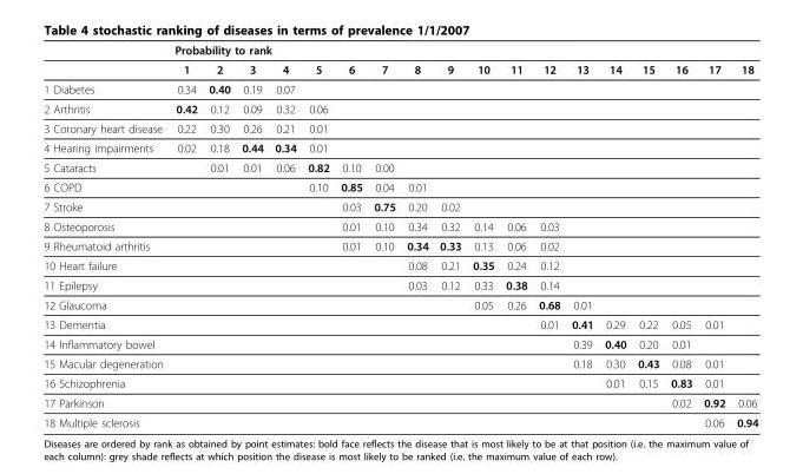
<table><thead><tr><td rowspan="2"></td><td colspan="18">Probability to rank</td></tr><tr><td>1</td><td>2</td><td>3</td><td>4</td><td>5</td><td>6</td><td>7</td><td>8</td><td>9</td><td>10</td><td>11</td><td>12</td><td>13</td><td>14</td><td>15</td><td>16</td><td>17</td><td>18</td></tr></thead><tbody><tr><td>1 Diabetes</td><td>0.34</td><td>0.40</td><td>0.19</td><td>0.07</td><td></td><td></td><td></td><td></td><td></td><td></td><td></td><td></td><td></td><td></td><td></td><td></td><td></td><td></td></tr><tr><td>2 Arthritis</td><td>0.42</td><td>0.12</td><td>0.09</td><td>0.32</td><td>0.06</td><td></td><td></td><td></td><td></td><td></td><td></td><td></td><td></td><td></td><td></td><td></td><td></td><td></td></tr><tr><td>3 Coronary heart disease</td><td>0.22</td><td>0.30</td><td>0.26</td><td>0.21</td><td>0.01</td><td></td><td></td><td></td><td></td><td></td><td></td><td></td><td></td><td></td><td></td><td></td><td></td><td></td></tr><tr><td>4 Hearing impairments</td><td>0.02</td><td>0.18</td><td>0.44</td><td>0.34</td><td>0.01</td><td></td><td></td><td></td><td></td><td></td><td></td><td></td><td></td><td></td><td></td><td></td><td></td><td></td></tr><tr><td>5 Cataracts</td><td></td><td>0.01</td><td>0.01</td><td>0.06</td><td>0.82</td><td>0.10</td><td>0.00</td><td></td><td></td><td></td><td></td><td></td><td></td><td></td><td></td><td></td><td></td><td></td></tr><tr><td>6 COPD</td><td></td><td></td><td></td><td></td><td>0.10</td><td>0.85</td><td>0.04</td><td>0.01</td><td></td><td></td><td></td><td></td><td></td><td></td><td></td><td></td><td></td><td></td></tr><tr><td>7 Stroke</td><td></td><td></td><td></td><td></td><td></td><td>0.03</td><td>0.75</td><td>0.20</td><td>0.02</td><td></td><td></td><td></td><td></td><td></td><td></td><td></td><td></td><td></td></tr><tr><td>8 Osteoporosis</td><td></td><td></td><td></td><td></td><td></td><td>0.01</td><td>0.10</td><td>0.34</td><td>0.32</td><td>0.14</td><td>0.06</td><td>0.03</td><td></td><td></td><td></td><td></td><td></td><td></td></tr><tr><td>9 Rheumatoid arthritis</td><td></td><td></td><td></td><td></td><td></td><td>0.01</td><td>0.10</td><td>0.34</td><td>0.33</td><td>0.13</td><td>0.06</td><td>0.02</td><td></td><td></td><td></td><td></td><td></td><td></td></tr><tr><td>10 Heart failure</td><td></td><td></td><td></td><td></td><td></td><td></td><td></td><td>0.08</td><td>0.21</td><td>0.35</td><td>0.24</td><td>0.12</td><td></td><td></td><td></td><td></td><td></td><td></td></tr><tr><td>11 Epilepsy</td><td></td><td></td><td></td><td></td><td></td><td></td><td></td><td>0.03</td><td>0.12</td><td>0.33</td><td>0.38</td><td>0.14</td><td></td><td></td><td></td><td></td><td></td><td></td></tr><tr><td>12 Glaucoma</td><td></td><td></td><td></td><td></td><td></td><td></td><td></td><td></td><td></td><td>0.05</td><td>0.26</td><td>0.68</td><td>0.01</td><td></td><td></td><td></td><td></td><td></td></tr><tr><td>13 Dementia</td><td></td><td></td><td></td><td></td><td></td><td></td><td></td><td></td><td></td><td></td><td></td><td>0.01</td><td>0.41</td><td>0.29</td><td>0.22</td><td>0.05</td><td>0.01</td><td></td></tr><tr><td>14 Inflammatory bowel</td><td></td><td></td><td></td><td></td><td></td><td></td><td></td><td></td><td></td><td></td><td></td><td></td><td>0.39</td><td>0.40</td><td>0.20</td><td>0.01</td><td></td><td></td></tr><tr><td>15 Macular degeneration</td><td></td><td></td><td></td><td></td><td></td><td></td><td></td><td></td><td></td><td></td><td></td><td></td><td>0.18</td><td>0.30</td><td>0.43</td><td>0.08</td><td>0.01</td><td></td></tr><tr><td>16 Schizophrenia</td><td></td><td></td><td></td><td></td><td></td><td></td><td></td><td></td><td></td><td></td><td></td><td></td><td></td><td>0.01</td><td>0.15</td><td>0.83</td><td>0.01</td><td></td></tr><tr><td>17 Parkinson</td><td></td><td></td><td></td><td></td><td></td><td></td><td></td><td></td><td></td><td></td><td></td><td></td><td></td><td></td><td></td><td>0.02</td><td>0.92</td><td>0.06</td></tr><tr><td>18 Multiple sclerosis</td><td></td><td></td><td></td><td></td><td></td><td></td><td></td><td></td><td></td><td></td><td></td><td></td><td></td><td></td><td></td><td></td><td>0.06</td><td>0.94</td></tr></tbody></table>